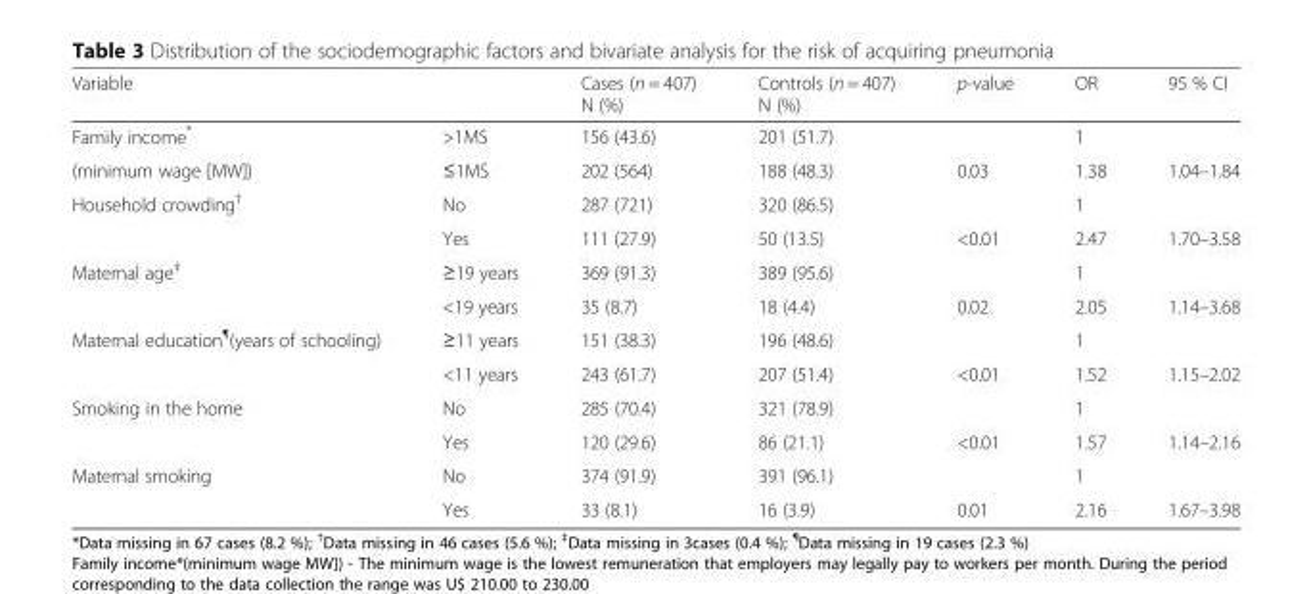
<table><thead><tr><td>Variable</td><td></td><td>Cases (n = 407) N (%)</td><td>Controls (n = 407) N (%)</td><td>p-value</td><td>OR</td><td>95 % CI</td></tr></thead><tbody><tr><td>Family income*</td><td>&gt;1MS</td><td>156 (43.6)</td><td>201 (51.7)</td><td></td><td>1</td><td></td></tr><tr><td>(minimum wage [MW])</td><td>≤1MS</td><td>202 (564)</td><td>188 (48.3)</td><td>0.03</td><td>1.38</td><td>1.04–1.84</td></tr><tr><td rowspan="2">Household crowding<sup>†</sup></td><td>No</td><td>287 (721)</td><td>320 (86.5)</td><td></td><td>1</td><td></td></tr><tr><td>Yes</td><td>111 (27.9)</td><td>50 (13.5)</td><td>&lt;0.01</td><td>2.47</td><td>1.70–3.58</td></tr><tr><td rowspan="2">Maternal age<sup>‡</sup></td><td>≥19 years</td><td>369 (91.3)</td><td>389 (95.6)</td><td></td><td>1</td><td></td></tr><tr><td>&lt;19 years</td><td>35 (8.7)</td><td>18 (4.4)</td><td>0.02</td><td>2.05</td><td>1.14–3.68</td></tr><tr><td rowspan="2">Maternal education<sup>¶</sup>(years of schooling)</td><td>≥11 years</td><td>151 (38.3)</td><td>196 (48.6)</td><td></td><td>1</td><td></td></tr><tr><td>&lt;11 years</td><td>243 (61.7)</td><td>207 (51.4)</td><td>&lt;0.01</td><td>1.52</td><td>1.15–2.02</td></tr><tr><td rowspan="2">Smoking in the home</td><td>No</td><td>285 (70.4)</td><td>321 (78.9)</td><td></td><td>1</td><td></td></tr><tr><td>Yes</td><td>120 (29.6)</td><td>86 (21.1)</td><td>&lt;0.01</td><td>1.57</td><td>1.14–2.16</td></tr><tr><td rowspan="2">Maternal smoking</td><td>No</td><td>374 (91.9)</td><td>391 (96.1)</td><td></td><td>1</td><td></td></tr><tr><td>Yes</td><td>33 (8.1)</td><td>16 (3.9)</td><td>0.01</td><td>2.16</td><td>1.67–3.98</td></tr></tbody></table>